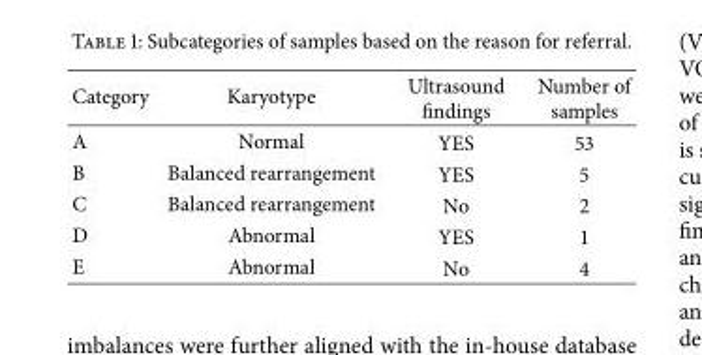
<table><thead><tr><td>Category</td><td>Karyotype</td><td>Ultrasound findings</td><td>Number of samples</td></tr></thead><tbody><tr><td>A</td><td>Normal</td><td>YES</td><td>53</td></tr><tr><td>B</td><td>Balanced rearrangement</td><td>YES</td><td>5</td></tr><tr><td>C</td><td>Balanced rearrangement</td><td>No</td><td>2</td></tr><tr><td>D</td><td>Abnormal</td><td>YES</td><td>1</td></tr><tr><td>E</td><td>Abnormal</td><td>No</td><td>4</td></tr></tbody></table>